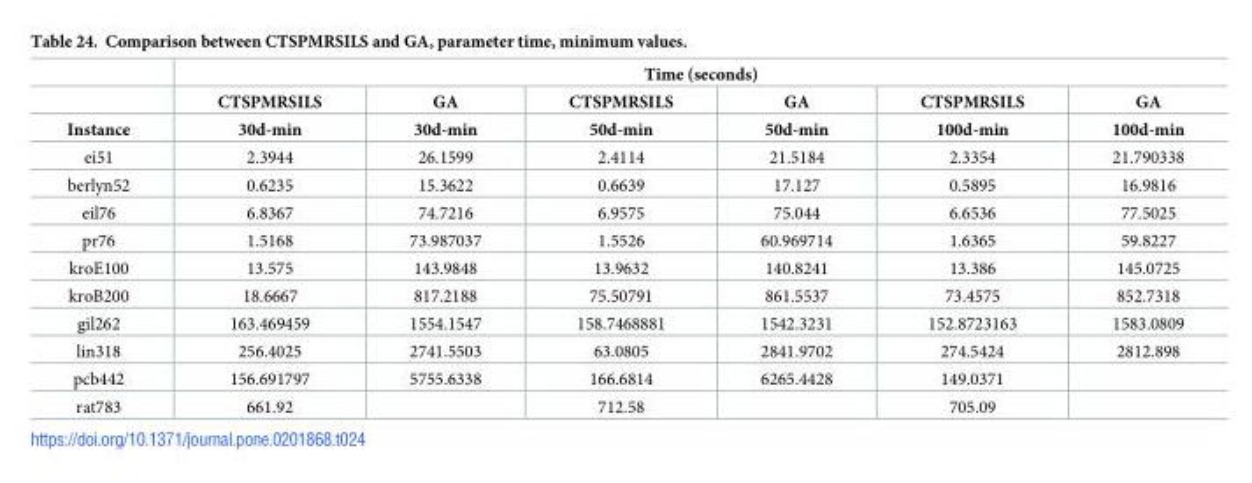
<table><thead><tr><td rowspan="3">Instance</td><td colspan="6">Time (seconds)</td></tr><tr><td rowspan="2">CTSPMRSILS 30d-min</td><td rowspan="2">GA 30d-min</td><td rowspan="2">CTSPMRSILS 50d-min</td><td rowspan="2">GA 50d-min</td><td rowspan="2">CTSPMRSILS 100d-min</td><td rowspan="2">GA 100d-min</td></tr><tr></tr></thead><tbody><tr><td>ei51</td><td>2.3944</td><td>26.1599</td><td>2.4114</td><td>21.5184</td><td>2.3354</td><td>21.790338</td></tr><tr><td>berlyn52</td><td>0.6235</td><td>15.3622</td><td>0.6639</td><td>17.127</td><td>0.5895</td><td>16.9816</td></tr><tr><td>eil76</td><td>6.8367</td><td>74.7216</td><td>6.9575</td><td>75.044</td><td>6.6536</td><td>77.5025</td></tr><tr><td>pr76</td><td>1.5168</td><td>73.987037</td><td>1.5526</td><td>60.969714</td><td>1.6365</td><td>59.8227</td></tr><tr><td>kroE100</td><td>13.575</td><td>143.9848</td><td>13.9632</td><td>140.8241</td><td>13.386</td><td>145.0725</td></tr><tr><td>kroB200</td><td>18.6667</td><td>817.2188</td><td>75.50791</td><td>861.5537</td><td>73.4575</td><td>852.7318</td></tr><tr><td>gil262</td><td>163.469459</td><td>1554.1547</td><td>158.7468881</td><td>1542.3231</td><td>152.8723163</td><td>1583.0809</td></tr><tr><td>lin318</td><td>256.4025</td><td>2741.5503</td><td>63.0805</td><td>2841.9702</td><td>274.5424</td><td>2812.898</td></tr><tr><td>pcb442</td><td>156.691797</td><td>5755.6338</td><td>166.6814</td><td>6265.4428</td><td>149.0371</td><td></td></tr><tr><td>rat783</td><td>661.92</td><td></td><td>712.58</td><td></td><td>705.09</td><td></td></tr></tbody></table>